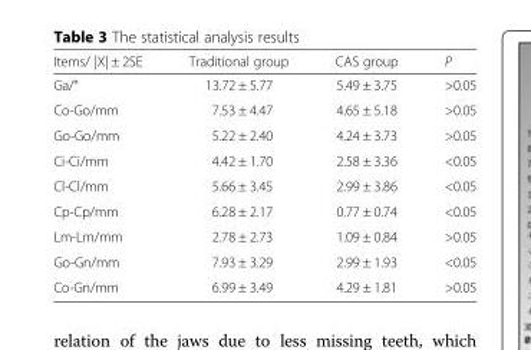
<table><thead><tr><td>Items/ |X| ± 2SE</td><td>Traditional group</td><td>CAS group</td><td>P</td></tr></thead><tbody><tr><td>Ga/°</td><td>13.72 ± 5.77</td><td>5.49 ± 3.75</td><td>&gt;0.05</td></tr><tr><td>Co-Go/mm</td><td>7.53 ± 4.47</td><td>4.65 ± 5.18</td><td>&gt;0.05</td></tr><tr><td>Go-Go/mm</td><td>5.22 ± 2.40</td><td>4.24 ± 3.73</td><td>&gt;0.05</td></tr><tr><td>Ci-Ci/mm</td><td>4.42 ± 1.70</td><td>2.58 ± 3.36</td><td>&lt;0.05</td></tr><tr><td>Cl-Cl/mm</td><td>5.66 ± 3.45</td><td>2.99 ± 3.86</td><td>&lt;0.05</td></tr><tr><td>Cp-Cp/mm</td><td>6.28 ± 2.17</td><td>0.77 ± 0.74</td><td>&lt;0.05</td></tr><tr><td>Lm-Lm/mm</td><td>2.78 ± 2.73</td><td>1.09 ± 0.84</td><td>&gt;0.05</td></tr><tr><td>Go-Gn/mm</td><td>7.93 ± 3.29</td><td>2.99 ± 1.93</td><td>&lt;0.05</td></tr><tr><td>Co-Gn/mm</td><td>6.99 ± 3.49</td><td>4.29 ± 1.81</td><td>&gt;0.05</td></tr></tbody></table>